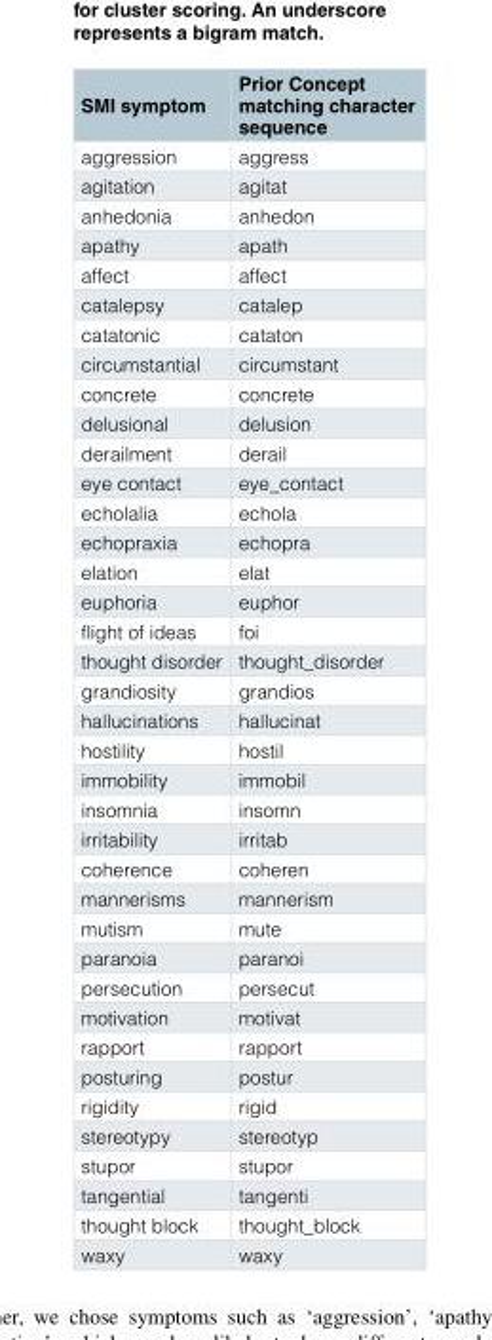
<table><thead><tr><td>SMI symptom</td><td>Prior Concept matching character sequence</td></tr></thead><tbody><tr><td>aggression</td><td>aggress</td></tr><tr><td>agitation</td><td>agitat</td></tr><tr><td>anhedonia</td><td>anhedon</td></tr><tr><td>apathy</td><td>apath</td></tr><tr><td>affect</td><td>affect</td></tr><tr><td>catalepsy</td><td>catalep</td></tr><tr><td>catatonic</td><td>cataton</td></tr><tr><td>circumstantial</td><td>circumstant</td></tr><tr><td>concrete</td><td>concrete</td></tr><tr><td>delusional</td><td>delusion</td></tr><tr><td>derailment</td><td>derail</td></tr><tr><td>eye contact</td><td>eye_contact</td></tr><tr><td>echolalia</td><td>echola</td></tr><tr><td>echopraxia</td><td>echopra</td></tr><tr><td>elation</td><td>elat</td></tr><tr><td>euphoria</td><td>euphor</td></tr><tr><td>flight of ideas</td><td>foi</td></tr><tr><td>thought disorder</td><td>thought_disorder</td></tr><tr><td>grandiosity</td><td>grandios</td></tr><tr><td>hallucinations</td><td>hallucinat</td></tr><tr><td>hostility</td><td>hostil</td></tr><tr><td>immobility</td><td>immobil</td></tr><tr><td>insomnia</td><td>insomn</td></tr><tr><td>irritability</td><td>irritab</td></tr><tr><td>coherence</td><td>coheren</td></tr><tr><td>mannerisms</td><td>mannerism</td></tr><tr><td>mutism</td><td>mute</td></tr><tr><td>paranoia</td><td>paranoi</td></tr><tr><td>persecution</td><td>persecut</td></tr><tr><td>motivation</td><td>motivat</td></tr><tr><td>rapport</td><td>rapport</td></tr><tr><td>posturing</td><td>postur</td></tr><tr><td>rigidity</td><td>rigid</td></tr><tr><td>stereotypy</td><td>stereotyp</td></tr><tr><td>stupor</td><td>stupor</td></tr><tr><td>tangential</td><td>tangenti</td></tr><tr><td>thought block</td><td>thought_block</td></tr><tr><td>waxy</td><td>waxy</td></tr></tbody></table>